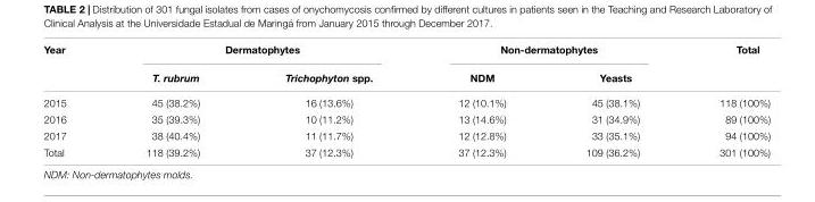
<table><thead><tr><td rowspan="2">Year</td><td colspan="2">Dermatophytes</td><td colspan="2">Non-dermatophytes</td><td rowspan="2">Total</td></tr><tr><td>T. rubrum</td><td>Trichophyton spp.</td><td>NDM</td><td>Yeasts</td></tr></thead><tbody><tr><td>2015</td><td>45 (38.2%)</td><td>16 (13.6%)</td><td>12 (10.1%)</td><td>45 (38.1%)</td><td>118 (100%)</td></tr><tr><td>2016</td><td>35 (39.3%)</td><td>10 (11.2%)</td><td>13 (14.6%)</td><td>31 (34.9%)</td><td>89 (100%)</td></tr><tr><td>2017</td><td>38 (40.4%)</td><td>11 (11.7%)</td><td>12 (12.8%)</td><td>33 (35.1%)</td><td>94 (100%)</td></tr><tr><td>Total</td><td>118 (39.2%)</td><td>37 (12.3%)</td><td>37 (12.3%)</td><td>109 (36.2%)</td><td>301 (100%)</td></tr></tbody></table>